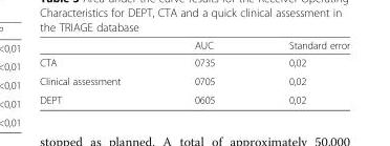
<table><thead><tr><td></td><td>AUC</td><td>Standard error</td></tr></thead><tbody><tr><td>CTA</td><td>0735</td><td>0,02</td></tr><tr><td>Clinical assessment</td><td>0705</td><td>0,02</td></tr><tr><td>DEPT</td><td>0605</td><td>0,02</td></tr></tbody></table>